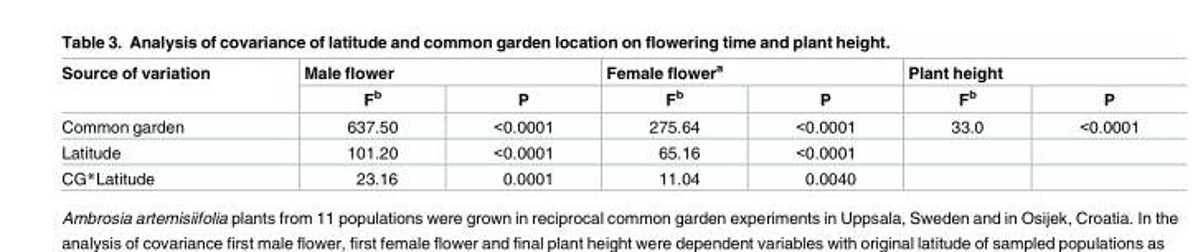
<table><thead><tr><td rowspan="2">Source of variation</td><td colspan="2">Male flower</td><td colspan="2">Female flower<sup>a</sup></td><td colspan="2">Plant height</td></tr><tr><td>F<sup>b</sup></td><td>P</td><td>F<sup>b</sup></td><td>P</td><td>F<sup>b</sup></td><td>P</td></tr></thead><tbody><tr><td>Common garden</td><td>637.50</td><td>&lt;0.0001</td><td>275.64</td><td>&lt;0.0001</td><td>33.0</td><td>&lt;0.0001</td></tr><tr><td>Latitude</td><td>101.20</td><td>&lt;0.0001</td><td>65.16</td><td>&lt;0.0001</td><td></td><td></td></tr><tr><td>CG*Latitude</td><td>23.16</td><td>0.0001</td><td>11.04</td><td>0.0040</td><td></td><td></td></tr></tbody></table>